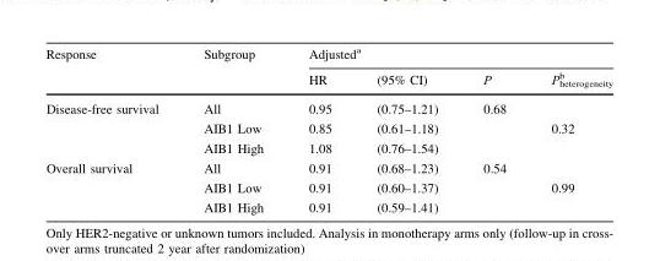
<table><thead><tr><td rowspan="2">Response</td><td rowspan="2">Subgroup</td><td colspan="4">Adjusted<sup>a</sup></td></tr><tr><td>HR</td><td>(95% CI)</td><td>P</td><td>P<sub>heterogeneity</sub> <sup>b</sup></td></tr></thead><tbody><tr><td rowspan="3">Disease-free survival</td><td>All</td><td>0.95</td><td>(0.75–1.21)</td><td>0.68</td><td></td></tr><tr><td>AIB1 Low</td><td>0.85</td><td>(0.61–1.18)</td><td></td><td>0.32</td></tr><tr><td>AIB1 High</td><td>1.08</td><td>(0.76–1.54)</td><td></td><td></td></tr><tr><td rowspan="3">Overall survival</td><td>All</td><td>0.91</td><td>(0.68–1.23)</td><td>0.54</td><td></td></tr><tr><td>AIB1 Low</td><td>0.91</td><td>(0.60–1.37)</td><td></td><td>0.99</td></tr><tr><td>AIB1 High</td><td>0.91</td><td>(0.59–1.41)</td><td></td><td></td></tr></tbody></table>